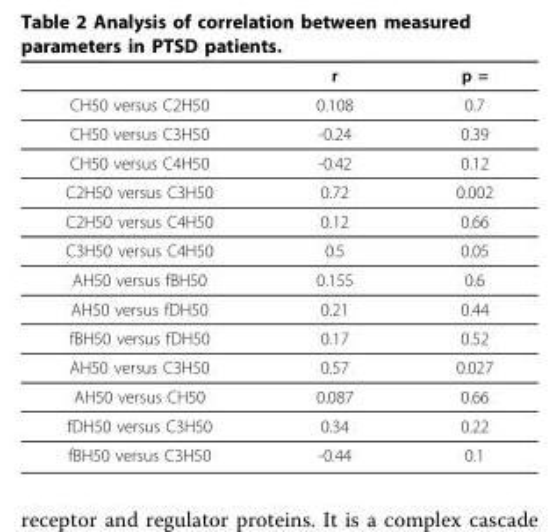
<table><thead><tr><td></td><td>r</td><td>p =</td></tr></thead><tbody><tr><td>CH50 versus C2H50</td><td>0.108</td><td>0.7</td></tr><tr><td>CH50 versus C3H50</td><td>-0.24</td><td>0.39</td></tr><tr><td>CH50 versus C4H50</td><td>-0.42</td><td>0.12</td></tr><tr><td>C2H50 versus C3H50</td><td>0.72</td><td>0.002</td></tr><tr><td>C2H50 versus C4H50</td><td>0.12</td><td>0.66</td></tr><tr><td>C3H50 versus C4H50</td><td>0.5</td><td>0.05</td></tr><tr><td>AH50 versus fBH50</td><td>0.155</td><td>0.6</td></tr><tr><td>AH50 versus fDH50</td><td>0.21</td><td>0.44</td></tr><tr><td>fBH50 versus fDH50</td><td>0.17</td><td>0.52</td></tr><tr><td>AH50 versus C3H50</td><td>0.57</td><td>0.027</td></tr><tr><td>AH50 versus CH50</td><td>0.087</td><td>0.66</td></tr><tr><td>fDH50 versus C3H50</td><td>0.34</td><td>0.22</td></tr><tr><td>fBH50 versus C3H50</td><td>-0.44</td><td>0.1</td></tr></tbody></table>